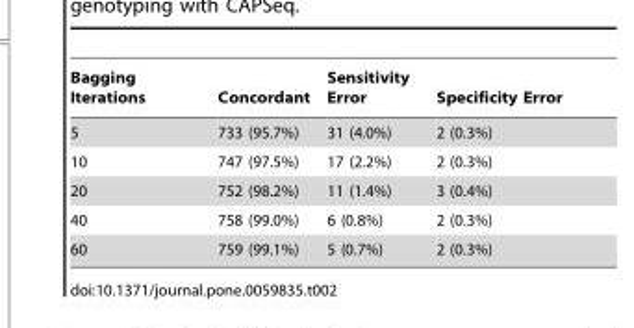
<table><thead><tr><td>Bagging Iterations</td><td>Concordant</td><td>Sensitivity Error</td><td>Specificity Error</td></tr></thead><tbody><tr><td>5</td><td>733 (95.7%)</td><td>31 (4.0%)</td><td>2 (0.3%)</td></tr><tr><td>10</td><td>747 (97.5%)</td><td>17 (2.2%)</td><td>2 (0.3%)</td></tr><tr><td>20</td><td>752 (98.2%)</td><td>11 (1.4%)</td><td>3 (0.4%)</td></tr><tr><td>40</td><td>758 (99.0%)</td><td>6 (0.8%)</td><td>2 (0.3%)</td></tr><tr><td>60</td><td>759 (99.1%)</td><td>5 (0.7%)</td><td>2 (0.3%)</td></tr></tbody></table>